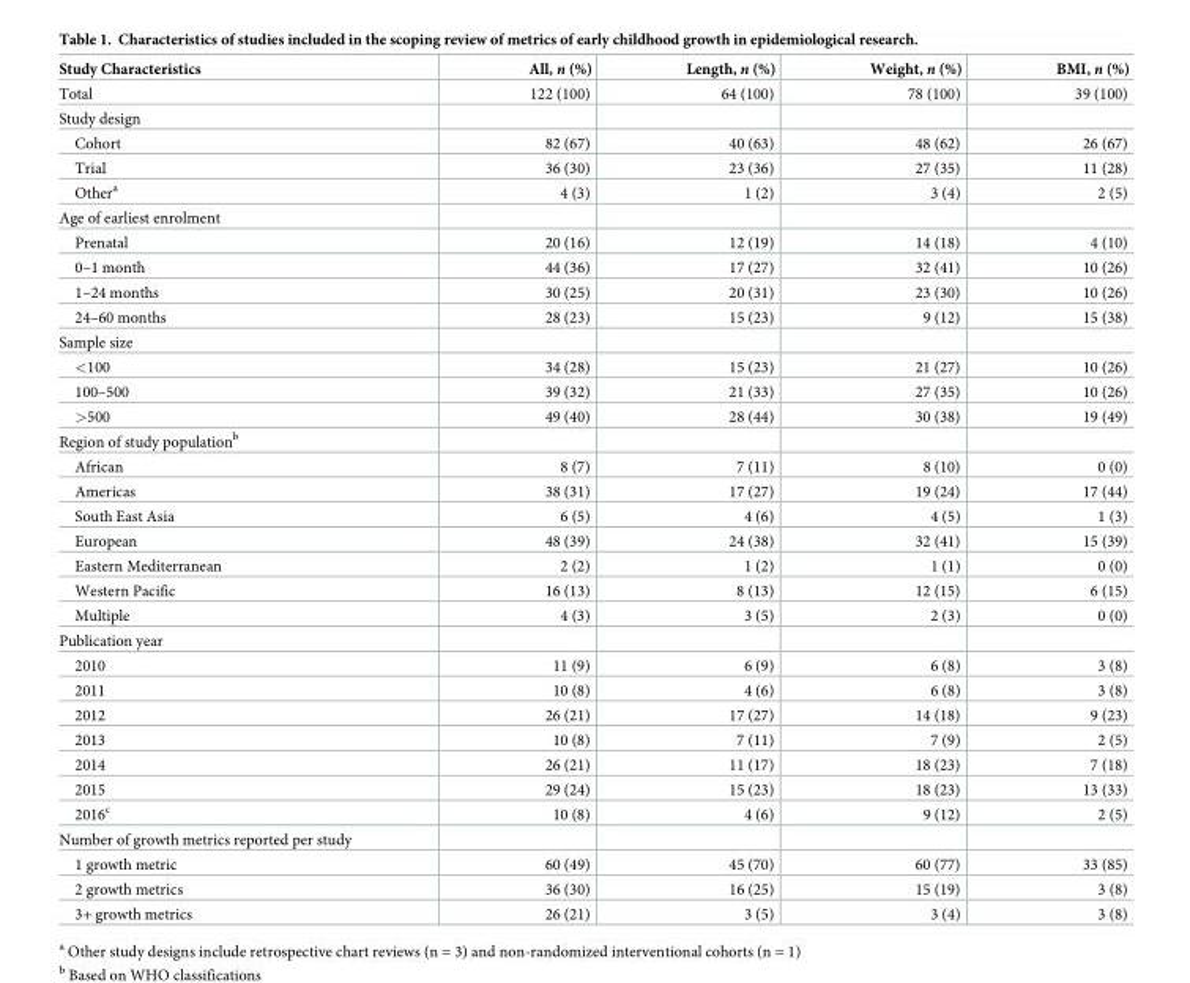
<table><thead><tr><td>Study Characteristics</td><td>All, n (%)</td><td>Length, n (%)</td><td>Weight, n (%)</td><td>BMI, n (%)</td></tr></thead><tbody><tr><td>Total</td><td>122 (100)</td><td>64 (100)</td><td>78 (100)</td><td>39 (100)</td></tr><tr><td colspan="5">Study design</td></tr><tr><td>Cohort</td><td>82 (67)</td><td>40 (63)</td><td>48 (62)</td><td>26 (67)</td></tr><tr><td>Trial</td><td>36 (30)</td><td>23 (36)</td><td>27 (35)</td><td>11 (28)</td></tr><tr><td>Other<sup>a</sup></td><td>4 (3)</td><td>1 (2)</td><td>3 (4)</td><td>2 (5)</td></tr><tr><td colspan="5">Age of earliest enrolment</td></tr><tr><td>Prenatal</td><td>20 (16)</td><td>12 (19)</td><td>14 (18)</td><td>4 (10)</td></tr><tr><td>0–1 month</td><td>44 (36)</td><td>17 (27)</td><td>32 (41)</td><td>10 (26)</td></tr><tr><td>1–24 months</td><td>30 (25)</td><td>20 (31)</td><td>23 (30)</td><td>10 (26)</td></tr><tr><td>24–60 months</td><td>28 (23)</td><td>15 (23)</td><td>9 (12)</td><td>15 (38)</td></tr><tr><td colspan="5">Sample size</td></tr><tr><td>&lt;100</td><td>34 (28)</td><td>15 (23)</td><td>21 (27)</td><td>10 (26)</td></tr><tr><td>100–500</td><td>39 (32)</td><td>21 (33)</td><td>27 (35)</td><td>10 (26)</td></tr><tr><td>&gt;500</td><td>49 (40)</td><td>28 (44)</td><td>30 (38)</td><td>19 (49)</td></tr><tr><td colspan="5">Region of study population<sup>b</sup></td></tr><tr><td>African</td><td>8 (7)</td><td>7 (11)</td><td>8 (10)</td><td>0 (0)</td></tr><tr><td>Americas</td><td>38 (31)</td><td>17 (27)</td><td>19 (24)</td><td>17 (44)</td></tr><tr><td>South East Asia</td><td>6 (5)</td><td>4 (6)</td><td>4 (5)</td><td>1 (3)</td></tr><tr><td>European</td><td>48 (39)</td><td>24 (38)</td><td>32 (41)</td><td>15 (39)</td></tr><tr><td>Eastern Mediterranean</td><td>2 (2)</td><td>1 (2)</td><td>1 (1)</td><td>0 (0)</td></tr><tr><td>Western Pacific</td><td>16 (13)</td><td>8 (13)</td><td>12 (15)</td><td>6 (15)</td></tr><tr><td>Multiple</td><td>4 (3)</td><td>3 (5)</td><td>2 (3)</td><td>0 (0)</td></tr><tr><td colspan="5">Publication year</td></tr><tr><td>2010</td><td>11 (9)</td><td>6 (9)</td><td>6 (8)</td><td>3 (8)</td></tr><tr><td>2011</td><td>10 (8)</td><td>4 (6)</td><td>6 (8)</td><td>3 (8)</td></tr><tr><td>2012</td><td>26 (21)</td><td>17 (27)</td><td>14 (18)</td><td>9 (23)</td></tr><tr><td>2013</td><td>10 (8)</td><td>7 (11)</td><td>7 (9)</td><td>2 (5)</td></tr><tr><td>2014</td><td>26 (21)</td><td>11 (17)</td><td>18 (23)</td><td>7 (18)</td></tr><tr><td>2015</td><td>29 (24)</td><td>15 (23)</td><td>18 (23)</td><td>13 (33)</td></tr><tr><td>2016<sup>c</sup></td><td>10 (8)</td><td>4 (6)</td><td>9 (12)</td><td>2 (5)</td></tr><tr><td colspan="5">Number of growth metrics reported per study</td></tr><tr><td>1 growth metric</td><td>60 (49)</td><td>45 (70)</td><td>60 (77)</td><td>33 (85)</td></tr><tr><td>2 growth metrics</td><td>36 (30)</td><td>16 (25)</td><td>15 (19)</td><td>3 (8)</td></tr><tr><td>3+ growth metrics</td><td>26 (21)</td><td>3 (5)</td><td>3 (4)</td><td>3 (8)</td></tr></tbody></table>